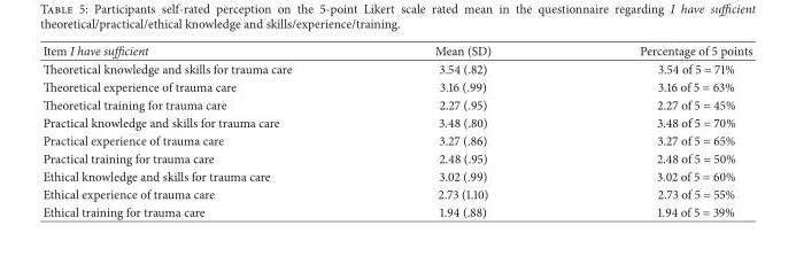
<table><thead><tr><td>Item I have sufficient</td><td>Mean (SD)</td><td>Percentage of 5 points</td></tr></thead><tbody><tr><td>Theoretical knowledge and skills for trauma care</td><td>3.54 (.82)</td><td>3.54 of 5 = 71%</td></tr><tr><td>Theoretical experience of trauma care</td><td>3.16 (.99)</td><td>3.16 of 5 = 63%</td></tr><tr><td>Theoretical training for trauma care</td><td>2.27 (.95)</td><td>2.27 of 5 = 45%</td></tr><tr><td>Practical knowledge and skills for trauma care</td><td>3.48 (.80)</td><td>3.48 of 5 = 70%</td></tr><tr><td>Practical experience of trauma care</td><td>3.27 (.86)</td><td>3.27 of 5 = 65%</td></tr><tr><td>Practical training for trauma care</td><td>2.48 (.95)</td><td>2.48 of 5 = 50%</td></tr><tr><td>Ethical knowledge and skills for trauma care</td><td>3.02 (.99)</td><td>3.02 of 5 = 60%</td></tr><tr><td>Ethical experience of trauma care</td><td>2.73 (1.10)</td><td>2.73 of 5 = 55%</td></tr><tr><td>Ethical training for trauma care</td><td>1.94 (.88)</td><td>1.94 of 5 = 39%</td></tr></tbody></table>